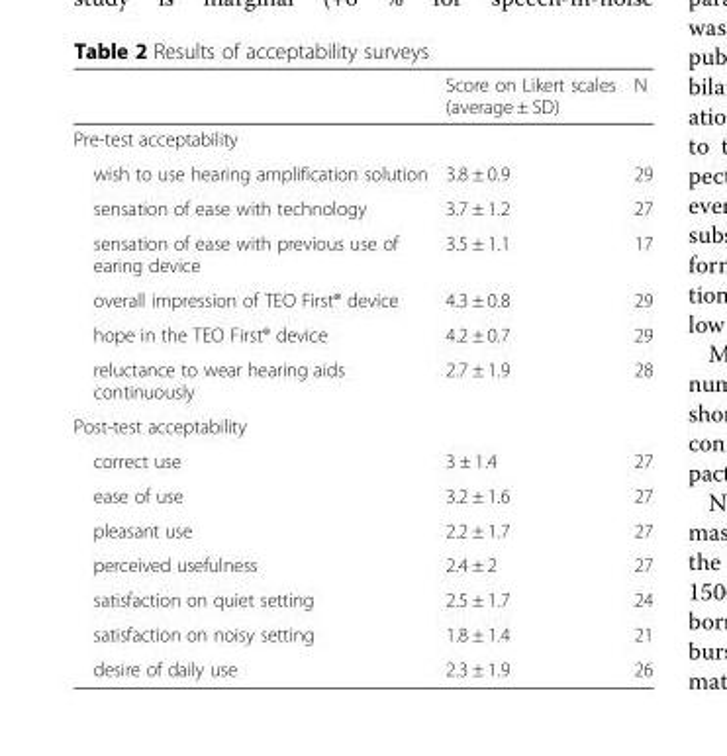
<table><thead><tr><td></td><td>Score on Likert scales (average ± SD)</td><td>N</td></tr></thead><tbody><tr><td colspan="3">Pre-test acceptability</td></tr><tr><td>wish to use hearing amplification solution</td><td>3.8 ± 0.9</td><td>29</td></tr><tr><td>sensation of ease with technology</td><td>3.7 ± 1.2</td><td>27</td></tr><tr><td>sensation of ease with previous use of earing device</td><td>3.5 ± 1.1</td><td>17</td></tr><tr><td>overall impression of TEO First® device</td><td>4.3 ± 0.8</td><td>29</td></tr><tr><td>hope in the TEO First® device</td><td>4.2 ± 0.7</td><td>29</td></tr><tr><td>reluctance to wear hearing aids continuously</td><td>2.7 ± 1.9</td><td>28</td></tr><tr><td colspan="3">Post-test acceptability</td></tr><tr><td>correct use</td><td>3 ± 1.4</td><td>27</td></tr><tr><td>ease of use</td><td>3.2 ± 1.6</td><td>27</td></tr><tr><td>pleasant use</td><td>2.2 ± 1.7</td><td>27</td></tr><tr><td>perceived usefulness</td><td>2.4 ± 2</td><td>27</td></tr><tr><td>satisfaction on quiet setting</td><td>2.5 ± 1.7</td><td>24</td></tr><tr><td>satisfaction on noisy setting</td><td>1.8 ± 1.4</td><td>21</td></tr><tr><td>desire of daily use</td><td>2.3 ± 1.9</td><td>26</td></tr></tbody></table>